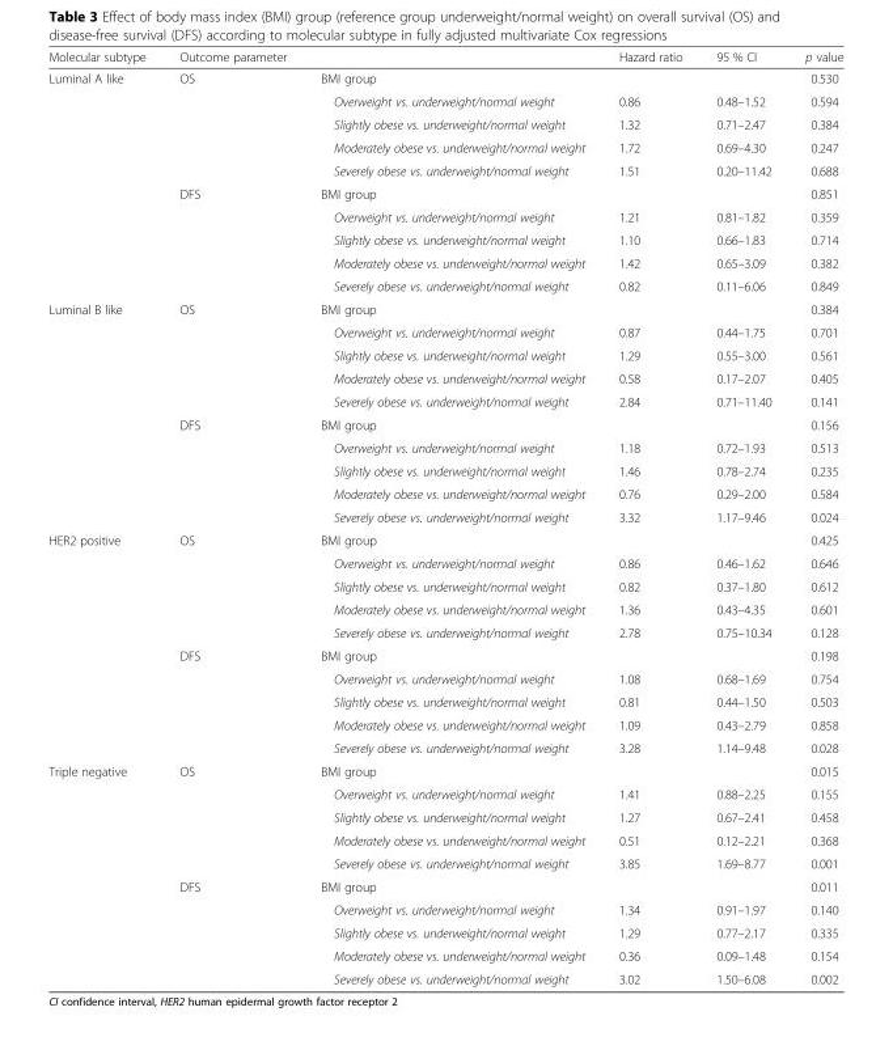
<table><thead><tr><td>Molecular subtype</td><td>Outcome parameter</td><td></td><td>Hazard ratio</td><td>95 % CI</td><td>p value</td></tr></thead><tbody><tr><td rowspan="10">Luminal A like</td><td rowspan="5">OS</td><td>BMI group</td><td></td><td></td><td>0.530</td></tr><tr><td>Overweight vs. underweight/normal weight</td><td>0.86</td><td>0.48–1.52</td><td>0.594</td></tr><tr><td>Slightly obese vs. underweight/normal weight</td><td>1.32</td><td>0.71–2.47</td><td>0.384</td></tr><tr><td>Moderately obese vs. underweight/normal weight</td><td>1.72</td><td>0.69–4.30</td><td>0.247</td></tr><tr><td>Severely obese vs. underweight/normal weight</td><td>1.51</td><td>0.20–11.42</td><td>0.688</td></tr><tr><td rowspan="5">DFS</td><td>BMI group</td><td></td><td></td><td>0.851</td></tr><tr><td>Overweight vs. underweight/normal weight</td><td>1.21</td><td>0.81–1.82</td><td>0.359</td></tr><tr><td>Slightly obese vs. underweight/normal weight</td><td>1.10</td><td>0.66–1.83</td><td>0.714</td></tr><tr><td>Moderately obese vs. underweight/normal weight</td><td>1.42</td><td>0.65–3.09</td><td>0.382</td></tr><tr><td>Severely obese vs. underweight/normal weight</td><td>0.82</td><td>0.11–6.06</td><td>0.849</td></tr><tr><td rowspan="10">Luminal B like</td><td rowspan="5">OS</td><td>BMI group</td><td></td><td></td><td>0.384</td></tr><tr><td>Overweight vs. underweight/normal weight</td><td>0.87</td><td>0.44–1.75</td><td>0.701</td></tr><tr><td>Slightly obese vs. underweight/normal weight</td><td>1.29</td><td>0.55–3.00</td><td>0.561</td></tr><tr><td>Moderately obese vs. underweight/normal weight</td><td>0.58</td><td>0.17–2.07</td><td>0.405</td></tr><tr><td>Severely obese vs. underweight/normal weight</td><td>2.84</td><td>0.71–11.40</td><td>0.141</td></tr><tr><td rowspan="5">DFS</td><td>BMI group</td><td></td><td></td><td>0.156</td></tr><tr><td>Overweight vs. underweight/normal weight</td><td>1.18</td><td>0.72–1.93</td><td>0.513</td></tr><tr><td>Slightly obese vs. underweight/normal weight</td><td>1.46</td><td>0.78–2.74</td><td>0.235</td></tr><tr><td>Moderately obese vs. underweight/normal weight</td><td>0.76</td><td>0.29–2.00</td><td>0.584</td></tr><tr><td>Severely obese vs. underweight/normal weight</td><td>3.32</td><td>1.17–9.46</td><td>0.024</td></tr><tr><td rowspan="10">HER2 positive</td><td rowspan="5">OS</td><td>BMI group</td><td></td><td></td><td>0.425</td></tr><tr><td>Overweight vs. underweight/normal weight</td><td>0.86</td><td>0.46–1.62</td><td>0.646</td></tr><tr><td>Slightly obese vs. underweight/normal weight</td><td>0.82</td><td>0.37–1.80</td><td>0.612</td></tr><tr><td>Moderately obese vs. underweight/normal weight</td><td>1.36</td><td>0.43–4.35</td><td>0.601</td></tr><tr><td>Severely obese vs. underweight/normal weight</td><td>2.78</td><td>0.75–10.34</td><td>0.128</td></tr><tr><td rowspan="5">DFS</td><td>BMI group</td><td></td><td></td><td>0.198</td></tr><tr><td>Overweight vs. underweight/normal weight</td><td>1.08</td><td>0.68–1.69</td><td>0.754</td></tr><tr><td>Slightly obese vs. underweight/normal weight</td><td>0.81</td><td>0.44–1.50</td><td>0.503</td></tr><tr><td>Moderately obese vs. underweight/normal weight</td><td>1.09</td><td>0.43–2.79</td><td>0.858</td></tr><tr><td>Severely obese vs. underweight/normal weight</td><td>3.28</td><td>1.14–9.48</td><td>0.028</td></tr><tr><td rowspan="10">Triple negative</td><td rowspan="5">OS</td><td>BMI group</td><td></td><td></td><td>0.015</td></tr><tr><td>Overweight vs. underweight/normal weight</td><td>1.41</td><td>0.88–2.25</td><td>0.155</td></tr><tr><td>Slightly obese vs. underweight/normal weight</td><td>1.27</td><td>0.67–2.41</td><td>0.458</td></tr><tr><td>Moderately obese vs. underweight/normal weight</td><td>0.51</td><td>0.12–2.21</td><td>0.368</td></tr><tr><td>Severely obese vs. underweight/normal weight</td><td>3.85</td><td>1.69–8.77</td><td>0.001</td></tr><tr><td rowspan="5">DFS</td><td>BMI group</td><td></td><td></td><td>0.011</td></tr><tr><td>Overweight vs. underweight/normal weight</td><td>1.34</td><td>0.91–1.97</td><td>0.140</td></tr><tr><td>Slightly obese vs. underweight/normal weight</td><td>1.29</td><td>0.77–2.17</td><td>0.335</td></tr><tr><td>Moderately obese vs. underweight/normal weight</td><td>0.36</td><td>0.09–1.48</td><td>0.154</td></tr><tr><td>Severely obese vs. underweight/normal weight</td><td>3.02</td><td>1.50–6.08</td><td>0.002</td></tr></tbody></table>